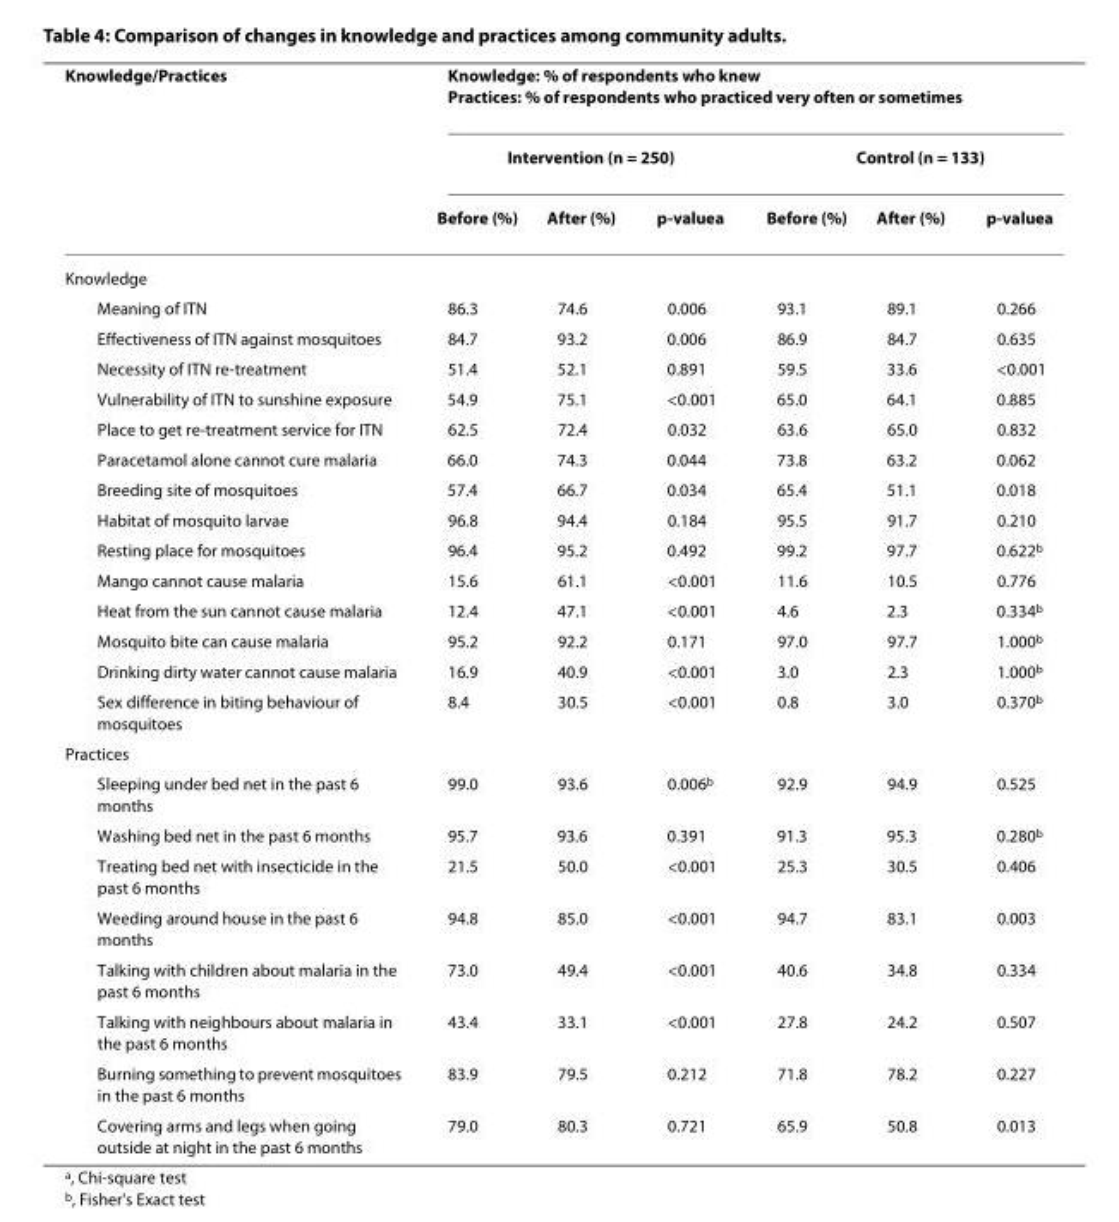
<table><thead><tr><td rowspan="3">Knowledge/Practices</td><td colspan="6">Knowledge: % of respondents who knew Practices: % of respondents who practiced very often or sometimes</td></tr><tr><td colspan="3">Intervention (n = 250)</td><td colspan="3">Control (n = 133)</td></tr><tr><td>Before (%)</td><td>After (%)</td><td>p-value<sup>a</sup></td><td>Before (%)</td><td>After (%)</td><td>p-value<sup>a</sup></td></tr></thead><tbody><tr><td colspan="7">Knowledge</td></tr><tr><td>Meaning of ITN</td><td>86.3</td><td>74.6</td><td>0.006</td><td>93.1</td><td>89.1</td><td>0.266</td></tr><tr><td>Effectiveness of ITN against mosquitoes</td><td>84.7</td><td>93.2</td><td>0.006</td><td>86.9</td><td>84.7</td><td>0.635</td></tr><tr><td>Necessity of ITN re-treatment</td><td>51.4</td><td>52.1</td><td>0.891</td><td>59.5</td><td>33.6</td><td>&lt;0.001</td></tr><tr><td>Vulnerability of ITN to sunshine exposure</td><td>54.9</td><td>75.1</td><td>&lt;0.001</td><td>65.0</td><td>64.1</td><td>0.885</td></tr><tr><td>Place to get re-treatment service for ITN</td><td>62.5</td><td>72.4</td><td>0.032</td><td>63.6</td><td>65.0</td><td>0.832</td></tr><tr><td>Paracetamol alone cannot cure malaria</td><td>66.0</td><td>74.3</td><td>0.044</td><td>73.8</td><td>63.2</td><td>0.062</td></tr><tr><td>Breeding site of mosquitoes</td><td>57.4</td><td>66.7</td><td>0.034</td><td>65.4</td><td>51.1</td><td>0.018</td></tr><tr><td>Habitat of mosquito larvae</td><td>96.8</td><td>94.4</td><td>0.184</td><td>95.5</td><td>91.7</td><td>0.210</td></tr><tr><td>Resting place for mosquitoes</td><td>96.4</td><td>95.2</td><td>0.492</td><td>99.2</td><td>97.7</td><td>0.622<sup>b</sup></td></tr><tr><td>Mango cannot cause malaria</td><td>15.6</td><td>61.1</td><td>&lt;0.001</td><td>11.6</td><td>10.5</td><td>0.776</td></tr><tr><td>Heat from the sun cannot cause malaria</td><td>12.4</td><td>47.1</td><td>&lt;0.001</td><td>4.6</td><td>2.3</td><td>0.334<sup>b</sup></td></tr><tr><td>Mosquito bite can cause malaria</td><td>95.2</td><td>92.2</td><td>0.171</td><td>97.0</td><td>97.7</td><td>1.000<sup>b</sup></td></tr><tr><td>Drinking dirty water cannot cause malaria</td><td>16.9</td><td>40.9</td><td>&lt;0.001</td><td>3.0</td><td>2.3</td><td>1.000<sup>b</sup></td></tr><tr><td>Sex difference in biting behaviour of mosquitoes</td><td>8.4</td><td>30.5</td><td>&lt;0.001</td><td>0.8</td><td>3.0</td><td>0.370<sup>b</sup></td></tr><tr><td colspan="7">Practices</td></tr><tr><td>Sleeping under bed net in the past 6 months</td><td>99.0</td><td>93.6</td><td>0.006<sup>b</sup></td><td>92.9</td><td>94.9</td><td>0.525</td></tr><tr><td>Washing bed net in the past 6 months</td><td>95.7</td><td>93.6</td><td>0.391</td><td>91.3</td><td>95.3</td><td>0.280<sup>b</sup></td></tr><tr><td>Treating bed net with insecticide in the past 6 months</td><td>21.5</td><td>50.0</td><td>&lt;0.001</td><td>25.3</td><td>30.5</td><td>0.406</td></tr><tr><td>Weeding around house in the past 6 months</td><td>94.8</td><td>85.0</td><td>&lt;0.001</td><td>94.7</td><td>83.1</td><td>0.003</td></tr><tr><td>Talking with children about malaria in the past 6 months</td><td>73.0</td><td>49.4</td><td>&lt;0.001</td><td>40.6</td><td>34.8</td><td>0.334</td></tr><tr><td>Talking with neighbours about malaria in the past 6 months</td><td>43.4</td><td>33.1</td><td>&lt;0.001</td><td>27.8</td><td>24.2</td><td>0.507</td></tr><tr><td>Burning something to prevent mosquitoes in the past 6 months</td><td>83.9</td><td>79.5</td><td>0.212</td><td>71.8</td><td>78.2</td><td>0.227</td></tr><tr><td>Covering arms and legs when going outside at night in the past 6 months</td><td>79.0</td><td>80.3</td><td>0.721</td><td>65.9</td><td>50.8</td><td>0.013</td></tr></tbody></table>